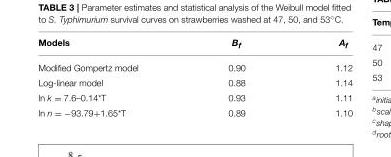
<table><thead><tr><td>Models</td><td>Bf</td><td>Af</td></tr></thead><tbody><tr><td>Modified Gompertz model</td><td>0.90</td><td>1.12</td></tr><tr><td>Log-linear model</td><td>0.88</td><td>1.14</td></tr><tr><td>ln k = 7.6–0.14*T</td><td>0.93</td><td>1.11</td></tr><tr><td>ln n = −93.79+1.65*T</td><td>0.89</td><td>1.10</td></tr></tbody></table>